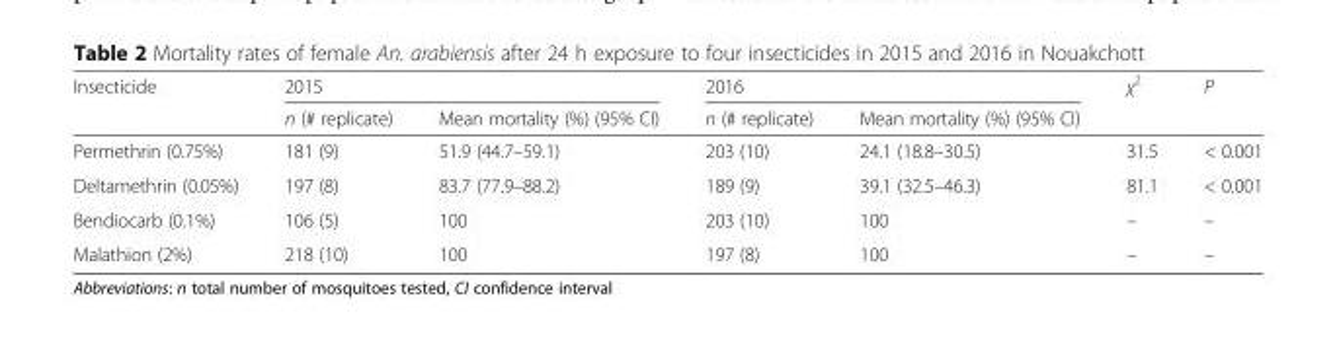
<table><thead><tr><td rowspan="2">Insecticide</td><td colspan="2">2015</td><td colspan="2">2016</td><td rowspan="2">χ<sup>2</sup></td><td rowspan="2">P</td></tr><tr><td>n (# replicate)</td><td>Mean mortality (%) (95% CI)</td><td>n (# replicate)</td><td>Mean mortality (%) (95% CI)</td></tr></thead><tbody><tr><td>Permethrin (0.75%)</td><td>181 (9)</td><td>51.9 (44.7–59.1)</td><td>203 (10)</td><td>24.1 (18.8–30.5)</td><td>31.5</td><td>&lt; 0.001</td></tr><tr><td>Deltamethrin (0.05%)</td><td>197 (8)</td><td>83.7 (77.9–88.2)</td><td>189 (9)</td><td>39.1 (32.5–46.3)</td><td>81.1</td><td>&lt; 0.001</td></tr><tr><td>Bendiocarb (0.1%)</td><td>106 (5)</td><td>100</td><td>203 (10)</td><td>100</td><td>–</td><td>–</td></tr><tr><td>Malathion (2%)</td><td>218 (10)</td><td>100</td><td>197 (8)</td><td>100</td><td>–</td><td>–</td></tr></tbody></table>